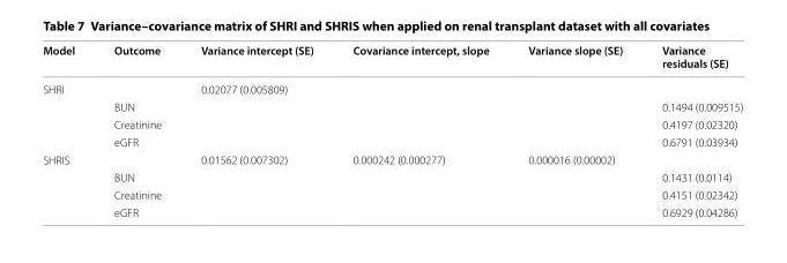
<table><thead><tr><td>Model</td><td>Outcome</td><td>Variance intercept (SE)</td><td>Covariance intercept, slope</td><td>Variance slope (SE)</td><td>Variance residuals (SE)</td></tr></thead><tbody><tr><td rowspan="4">SHRI</td><td></td><td>0.02077 (0.005809)</td><td></td><td></td><td></td></tr><tr><td>BUN</td><td></td><td></td><td></td><td>0.1494 (0.009515)</td></tr><tr><td>Creatinine</td><td></td><td></td><td></td><td>0.4197 (0.02320)</td></tr><tr><td>eGFR</td><td></td><td></td><td></td><td>0.6791 (0.03934)</td></tr><tr><td rowspan="4">SHRIS</td><td></td><td>0.01562 (0.007302)</td><td>0.000242 (0.000277)</td><td>0.000016 (0.00002)</td><td></td></tr><tr><td>BUN</td><td></td><td></td><td></td><td>0.1431 (0.0114)</td></tr><tr><td>Creatinine</td><td></td><td></td><td></td><td>0.4151 (0.02342)</td></tr><tr><td>eGFR</td><td></td><td></td><td></td><td>0.6929 (0.04286)</td></tr></tbody></table>